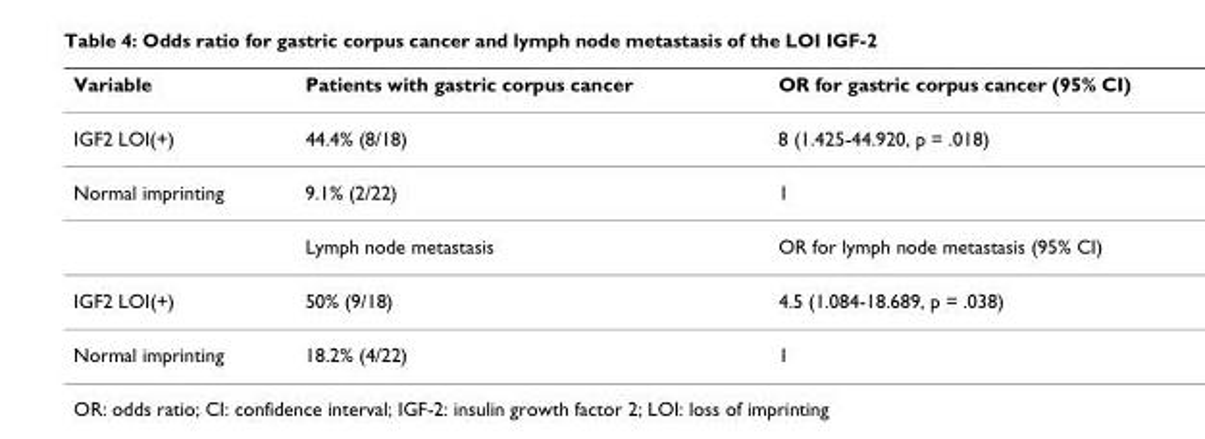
<table><thead><tr><td>Variable</td><td>Patients with gastric corpus cancer</td><td>OR for gastric corpus cancer (95% CI)</td></tr></thead><tbody><tr><td>IGF2 LOI(+)</td><td>44.4% (8/18)</td><td>8 (1.425-44.920, p = .018)</td></tr><tr><td rowspan="2">Normal imprinting</td><td>9.1% (2/22)</td><td>1</td></tr><tr><td>Lymph node metastasis</td><td>OR for lymph node metastasis (95% CI)</td></tr><tr><td>IGF2 LOI(+)</td><td>50% (9/18)</td><td>4.5 (1.084-18.689, p = .038)</td></tr><tr><td>Normal imprinting</td><td>18.2% (4/22)</td><td>1</td></tr></tbody></table>